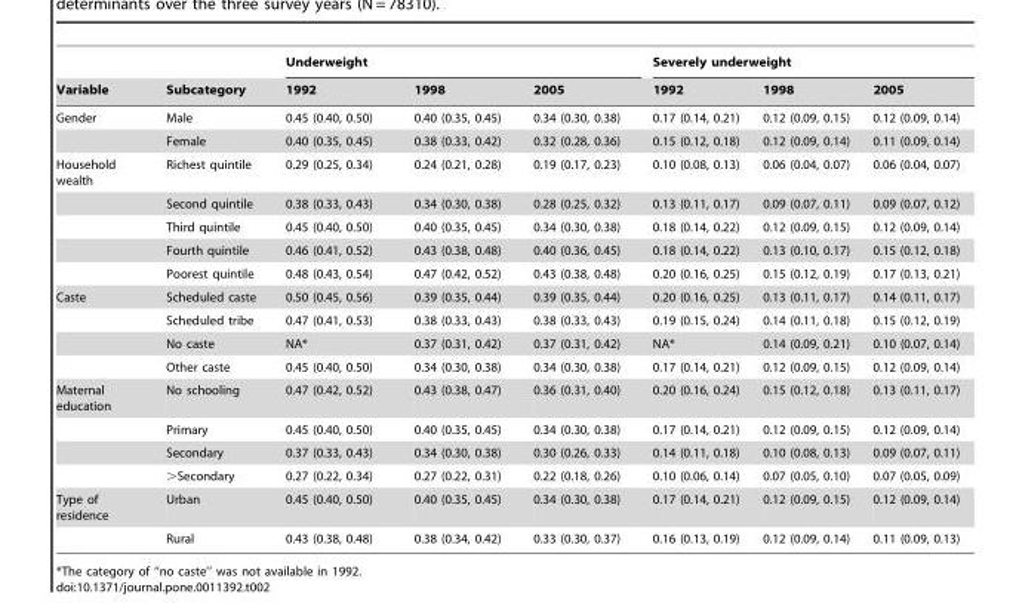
<table><thead><tr><td rowspan="2">Variable</td><td rowspan="2">Subcategory</td><td colspan="3">Underweight</td><td colspan="3">Severely underweight</td></tr><tr><td>1992</td><td>1998</td><td>2005</td><td>1992</td><td>1998</td><td>2005</td></tr></thead><tbody><tr><td rowspan="2">Gender</td><td>Male</td><td>0.45 (0.40, 0.50)</td><td>0.40 (0.35, 0.45)</td><td>0.34 (0.30, 0.38)</td><td>0.17 (0.14, 0.21)</td><td>0.12 (0.09, 0.15)</td><td>0.12 (0.09, 0.14)</td></tr><tr><td>Female</td><td>0.40 (0.35, 0.45)</td><td>0.38 (0.33, 0.42)</td><td>0.32 (0.28, 0.36)</td><td>0.15 (0.12, 0.18)</td><td>0.12 (0.09, 0.14)</td><td>0.11 (0.09, 0.14)</td></tr><tr><td rowspan="5">Household wealth</td><td>Richest quintile</td><td>0.29 (0.25, 0.34)</td><td>0.24 (0.21, 0.28)</td><td>0.19 (0.17, 0.23)</td><td>0.10 (0.08, 0.13)</td><td>0.06 (0.04, 0.07)</td><td>0.06 (0.04, 0.07)</td></tr><tr><td>Second quintile</td><td>0.38 (0.33, 0.43)</td><td>0.34 (0.30, 0.38)</td><td>0.28 (0.25, 0.32)</td><td>0.13 (0.11, 0.17)</td><td>0.09 (0.07, 0.11)</td><td>0.09 (0.07, 0.12)</td></tr><tr><td>Third quintile</td><td>0.45 (0.40, 0.50)</td><td>0.40 (0.35, 0.45)</td><td>0.34 (0.30, 0.38)</td><td>0.18 (0.14, 0.22)</td><td>0.12 (0.09, 0.15)</td><td>0.12 (0.09, 0.14)</td></tr><tr><td>Fourth quintile</td><td>0.46 (0.41, 0.52)</td><td>0.43 (0.38, 0.48)</td><td>0.40 (0.36, 0.45)</td><td>0.18 (0.14, 0.22)</td><td>0.13 (0.10, 0.17)</td><td>0.15 (0.12, 0.18)</td></tr><tr><td>Poorest quintile</td><td>0.48 (0.43, 0.54)</td><td>0.47 (0.42, 0.52)</td><td>0.43 (0.38, 0.48)</td><td>0.20 (0.16, 0.25)</td><td>0.15 (0.12, 0.19)</td><td>0.17 (0.13, 0.21)</td></tr><tr><td rowspan="4">Caste</td><td>Scheduled caste</td><td>0.50 (0.45, 0.56)</td><td>0.39 (0.35, 0.44)</td><td>0.39 (0.35, 0.44)</td><td>0.20 (0.16, 0.25)</td><td>0.13 (0.11, 0.17)</td><td>0.14 (0.11, 0.17)</td></tr><tr><td>Scheduled tribe</td><td>0.47 (0.41, 0.53)</td><td>0.38 (0.33, 0.43)</td><td>0.38 (0.33, 0.43)</td><td>0.19 (0.15, 0.24)</td><td>0.14 (0.11, 0.18)</td><td>0.15 (0.12, 0.19)</td></tr><tr><td>No caste</td><td>NA*</td><td>0.37 (0.31, 0.42)</td><td>0.37 (0.31, 0.42)</td><td>NA*</td><td>0.14 (0.09, 0.21)</td><td>0.10 (0.07, 0.14)</td></tr><tr><td>Other caste</td><td>0.45 (0.40, 0.50)</td><td>0.34 (0.30, 0.38)</td><td>0.34 (0.30, 0.38)</td><td>0.17 (0.14, 0.21)</td><td>0.12 (0.09, 0.15)</td><td>0.12 (0.09, 0.14)</td></tr><tr><td rowspan="4">Maternal education</td><td>No schooling</td><td>0.47 (0.42, 0.52)</td><td>0.43 (0.38, 0.47)</td><td>0.36 (0.31, 0.40)</td><td>0.20 (0.16, 0.24)</td><td>0.15 (0.12, 0.18)</td><td>0.13 (0.11, 0.17)</td></tr><tr><td>Primary</td><td>0.45 (0.40, 0.50)</td><td>0.40 (0.35, 0.45)</td><td>0.34 (0.30, 0.38)</td><td>0.17 (0.14, 0.21)</td><td>0.12 (0.09, 0.15)</td><td>0.12 (0.09, 0.14)</td></tr><tr><td>Secondary</td><td>0.37 (0.33, 0.43)</td><td>0.34 (0.30, 0.38)</td><td>0.30 (0.26, 0.33)</td><td>0.14 (0.11, 0.18)</td><td>0.10 (0.08, 0.13)</td><td>0.09 (0.07, 0.11)</td></tr><tr><td>&gt;Secondary</td><td>0.27 (0.22, 0.34)</td><td>0.27 (0.22, 0.31)</td><td>0.22 (0.18, 0.26)</td><td>0.10 (0.06, 0.14)</td><td>0.07 (0.05, 0.10)</td><td>0.07 (0.05, 0.09)</td></tr><tr><td rowspan="2">Type of residence</td><td>Urban</td><td>0.45 (0.40, 0.50)</td><td>0.40 (0.35, 0.45)</td><td>0.34 (0.30, 0.38)</td><td>0.17 (0.14, 0.21)</td><td>0.12 (0.09, 0.15)</td><td>0.12 (0.09, 0.14)</td></tr><tr><td>Rural</td><td>0.43 (0.38, 0.48)</td><td>0.38 (0.34, 0.42)</td><td>0.33 (0.30, 0.37)</td><td>0.16 (0.13, 0.19)</td><td>0.12 (0.09, 0.14)</td><td>0.11 (0.09, 0.13)</td></tr></tbody></table>